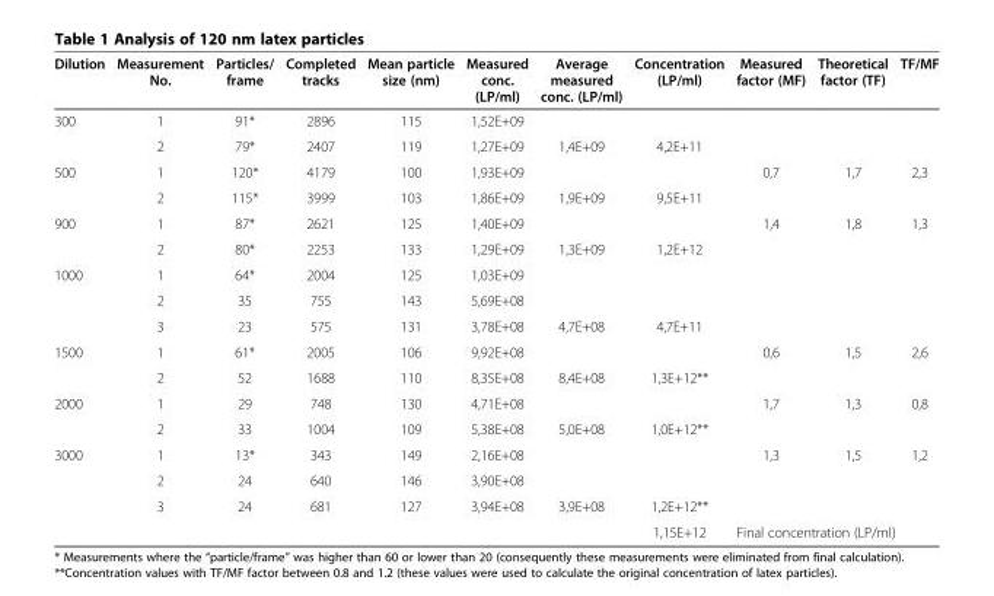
<table><thead><tr><td>Dilution</td><td>Measurement No.</td><td>Particles/ frame</td><td>Completed tracks</td><td>Mean particle size (nm)</td><td>Measured conc. (LP/ml)</td><td>Average measured conc. (LP/ml)</td><td>Concentration (LP/ml)</td><td>Measured factor (MF)</td><td>Theoretical factor (TF)</td><td>TF/MF</td></tr></thead><tbody><tr><td rowspan="2">300</td><td>1</td><td>91*</td><td>2896</td><td>115</td><td>1,52E+09</td><td></td><td></td><td></td><td></td><td></td></tr><tr><td>2</td><td>79*</td><td>2407</td><td>119</td><td>1,27E+09</td><td>1,4E+09</td><td>4,2E+11</td><td></td><td></td><td></td></tr><tr><td rowspan="2">500</td><td>1</td><td>120*</td><td>4179</td><td>100</td><td>1,93E+09</td><td></td><td></td><td>0,7</td><td>1,7</td><td>2,3</td></tr><tr><td>2</td><td>115*</td><td>3999</td><td>103</td><td>1,86E+09</td><td>1,9E+09</td><td>9,5E+11</td><td></td><td></td><td></td></tr><tr><td rowspan="2">900</td><td>1</td><td>87*</td><td>2621</td><td>125</td><td>1,40E+09</td><td></td><td></td><td>1,4</td><td>1,8</td><td>1,3</td></tr><tr><td>2</td><td>80*</td><td>2253</td><td>133</td><td>1,29E+09</td><td>1,3E+09</td><td>1,2E+12</td><td></td><td></td><td></td></tr><tr><td rowspan="3">1000</td><td>1</td><td>64*</td><td>2004</td><td>125</td><td>1,03E+09</td><td></td><td></td><td></td><td></td><td></td></tr><tr><td>2</td><td>35</td><td>755</td><td>143</td><td>5,69E+08</td><td></td><td></td><td></td><td></td><td></td></tr><tr><td>3</td><td>23</td><td>575</td><td>131</td><td>3,78E+08</td><td>4,7E+08</td><td>4,7E+11</td><td></td><td></td><td></td></tr><tr><td rowspan="2">1500</td><td>1</td><td>61*</td><td>2005</td><td>106</td><td>9,92E+08</td><td></td><td></td><td>0,6</td><td>1,5</td><td>2,6</td></tr><tr><td>2</td><td>52</td><td>1688</td><td>110</td><td>8,35E+08</td><td>8,4E+08</td><td>1,3E+12**</td><td></td><td></td><td></td></tr><tr><td rowspan="2">2000</td><td>1</td><td>29</td><td>748</td><td>130</td><td>4,71E+08</td><td></td><td></td><td>1,7</td><td>1,3</td><td>0,8</td></tr><tr><td>2</td><td>33</td><td>1004</td><td>109</td><td>5,38E+08</td><td>5,0E+08</td><td>1,0E+12**</td><td></td><td></td><td></td></tr><tr><td rowspan="4">3000</td><td>1</td><td>13*</td><td>343</td><td>149</td><td>2,16E+08</td><td></td><td></td><td>1,3</td><td>1,5</td><td>1,2</td></tr><tr><td>2</td><td>24</td><td>640</td><td>146</td><td>3,90E+08</td><td></td><td></td><td></td><td></td><td></td></tr><tr><td>3</td><td>24</td><td>681</td><td>127</td><td>3,94E+08</td><td>3,9E+08</td><td>1,2E+12**</td><td></td><td></td><td></td></tr><tr><td></td><td></td><td></td><td></td><td></td><td></td><td>1,15E+12</td><td colspan="3">Final concentration (LP/ml)</td></tr></tbody></table>